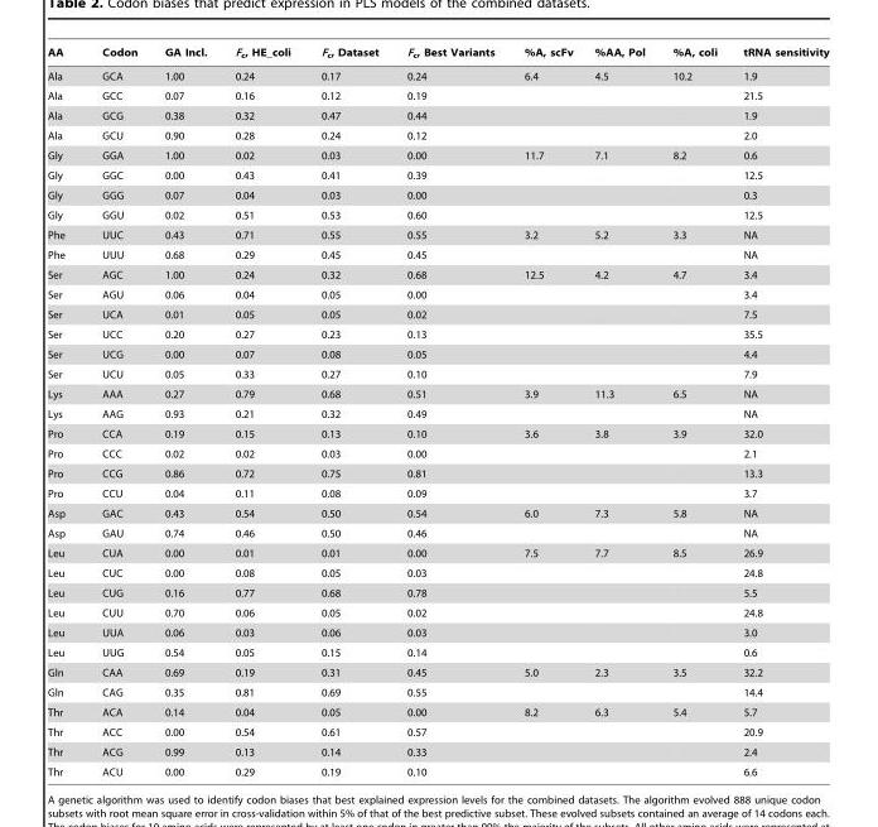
<table><thead><tr><td>AA</td><td>Codon</td><td>GA Incl.</td><td>F<sub>c</sub>, HE_coli</td><td>F<sub>c</sub>, Dataset</td><td>F<sub>c</sub>, Best Variants</td><td>%A, scFv</td><td>%AA, Pol</td><td>%A, coli</td><td>tRNA sensitivity</td></tr></thead><tbody><tr><td>Ala</td><td>GCA</td><td>1.00</td><td>0.24</td><td>0.17</td><td>0.24</td><td>6.4</td><td>4.5</td><td>10.2</td><td>1.9</td></tr><tr><td>Ala</td><td>GCC</td><td>0.07</td><td>0.16</td><td>0.12</td><td>0.19</td><td></td><td></td><td></td><td>21.5</td></tr><tr><td>Ala</td><td>GCG</td><td>0.38</td><td>0.32</td><td>0.47</td><td>0.44</td><td></td><td></td><td></td><td>1.9</td></tr><tr><td>Ala</td><td>GCU</td><td>0.90</td><td>0.28</td><td>0.24</td><td>0.12</td><td></td><td></td><td></td><td>2.0</td></tr><tr><td>Gly</td><td>GGA</td><td>1.00</td><td>0.02</td><td>0.03</td><td>0.00</td><td>11.7</td><td>7.1</td><td>8.2</td><td>0.6</td></tr><tr><td>Gly</td><td>GGC</td><td>0.00</td><td>0.43</td><td>0.41</td><td>0.39</td><td></td><td></td><td></td><td>12.5</td></tr><tr><td>Gly</td><td>GGG</td><td>0.07</td><td>0.04</td><td>0.03</td><td>0.00</td><td></td><td></td><td></td><td>0.3</td></tr><tr><td>Gly</td><td>GGU</td><td>0.02</td><td>0.51</td><td>0.53</td><td>0.60</td><td></td><td></td><td></td><td>12.5</td></tr><tr><td>Phe</td><td>UUC</td><td>0.43</td><td>0.71</td><td>0.55</td><td>0.55</td><td>3.2</td><td>5.2</td><td>3.3</td><td>NA</td></tr><tr><td>Phe</td><td>UUU</td><td>0.68</td><td>0.29</td><td>0.45</td><td>0.45</td><td></td><td></td><td></td><td>NA</td></tr><tr><td>Ser</td><td>AGC</td><td>1.00</td><td>0.24</td><td>0.32</td><td>0.68</td><td>12.5</td><td>4.2</td><td>4.7</td><td>3.4</td></tr><tr><td>Ser</td><td>AGU</td><td>0.06</td><td>0.04</td><td>0.05</td><td>0.00</td><td></td><td></td><td></td><td>3.4</td></tr><tr><td>Ser</td><td>UCA</td><td>0.01</td><td>0.05</td><td>0.05</td><td>0.02</td><td></td><td></td><td></td><td>7.5</td></tr><tr><td>Ser</td><td>UCC</td><td>0.20</td><td>0.27</td><td>0.23</td><td>0.13</td><td></td><td></td><td></td><td>35.5</td></tr><tr><td>Ser</td><td>UCG</td><td>0.00</td><td>0.07</td><td>0.08</td><td>0.05</td><td></td><td></td><td></td><td>4.4</td></tr><tr><td>Ser</td><td>UCU</td><td>0.05</td><td>0.33</td><td>0.27</td><td>0.10</td><td></td><td></td><td></td><td>7.9</td></tr><tr><td>Lys</td><td>AAA</td><td>0.27</td><td>0.79</td><td>0.68</td><td>0.51</td><td>3.9</td><td>11.3</td><td>6.5</td><td>NA</td></tr><tr><td>Lys</td><td>AAG</td><td>0.93</td><td>0.21</td><td>0.32</td><td>0.49</td><td></td><td></td><td></td><td>NA</td></tr><tr><td>Pro</td><td>CCA</td><td>0.19</td><td>0.15</td><td>0.13</td><td>0.10</td><td>3.6</td><td>3.8</td><td>3.9</td><td>32.0</td></tr><tr><td>Pro</td><td>CCC</td><td>0.02</td><td>0.02</td><td>0.03</td><td>0.00</td><td></td><td></td><td></td><td>2.1</td></tr><tr><td>Pro</td><td>CCG</td><td>0.86</td><td>0.72</td><td>0.75</td><td>0.81</td><td></td><td></td><td></td><td>13.3</td></tr><tr><td>Pro</td><td>CCU</td><td>0.04</td><td>0.11</td><td>0.08</td><td>0.09</td><td></td><td></td><td></td><td>3.7</td></tr><tr><td>Asp</td><td>GAC</td><td>0.43</td><td>0.54</td><td>0.50</td><td>0.54</td><td>6.0</td><td>7.3</td><td>5.8</td><td>NA</td></tr><tr><td>Asp</td><td>GAU</td><td>0.74</td><td>0.46</td><td>0.50</td><td>0.46</td><td></td><td></td><td></td><td>NA</td></tr><tr><td>Leu</td><td>CUA</td><td>0.00</td><td>0.01</td><td>0.01</td><td>0.00</td><td>7.5</td><td>7.7</td><td>8.5</td><td>26.9</td></tr><tr><td>Leu</td><td>CUC</td><td>0.00</td><td>0.08</td><td>0.05</td><td>0.03</td><td></td><td></td><td></td><td>24.8</td></tr><tr><td>Leu</td><td>CUG</td><td>0.16</td><td>0.77</td><td>0.68</td><td>0.78</td><td></td><td></td><td></td><td>5.5</td></tr><tr><td>Leu</td><td>CUU</td><td>0.70</td><td>0.06</td><td>0.05</td><td>0.02</td><td></td><td></td><td></td><td>24.8</td></tr><tr><td>Leu</td><td>UUA</td><td>0.06</td><td>0.03</td><td>0.06</td><td>0.03</td><td></td><td></td><td></td><td>3.0</td></tr><tr><td>Leu</td><td>UUG</td><td>0.54</td><td>0.05</td><td>0.15</td><td>0.14</td><td></td><td></td><td></td><td>0.6</td></tr><tr><td>Gln</td><td>CAA</td><td>0.69</td><td>0.19</td><td>0.31</td><td>0.45</td><td>5.0</td><td>2.3</td><td>3.5</td><td>32.2</td></tr><tr><td>Gln</td><td>CAG</td><td>0.35</td><td>0.81</td><td>0.69</td><td>0.55</td><td></td><td></td><td></td><td>14.4</td></tr><tr><td>Thr</td><td>ACA</td><td>0.14</td><td>0.04</td><td>0.05</td><td>0.00</td><td>8.2</td><td>6.3</td><td>5.4</td><td>5.7</td></tr><tr><td>Thr</td><td>ACC</td><td>0.00</td><td>0.54</td><td>0.61</td><td>0.57</td><td></td><td></td><td></td><td>20.9</td></tr><tr><td>Thr</td><td>ACG</td><td>0.99</td><td>0.13</td><td>0.14</td><td>0.33</td><td></td><td></td><td></td><td>2.4</td></tr><tr><td>Thr</td><td>ACU</td><td>0.00</td><td>0.29</td><td>0.19</td><td>0.10</td><td></td><td></td><td></td><td>6.6</td></tr></tbody></table>